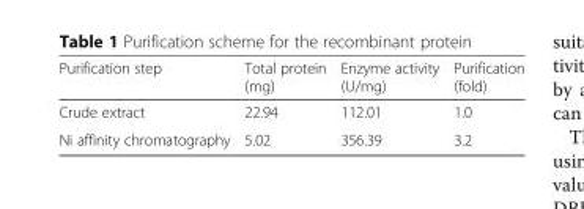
<table><thead><tr><td>Purification step</td><td>Total protein (mg)</td><td>Enzyme activity (U/mg)</td><td>Purification (fold)</td></tr></thead><tbody><tr><td>Crude extract</td><td>22.94</td><td>112.01</td><td>1.0</td></tr><tr><td>Ni affinity chromatography</td><td>5.02</td><td>356.39</td><td>3.2</td></tr></tbody></table>